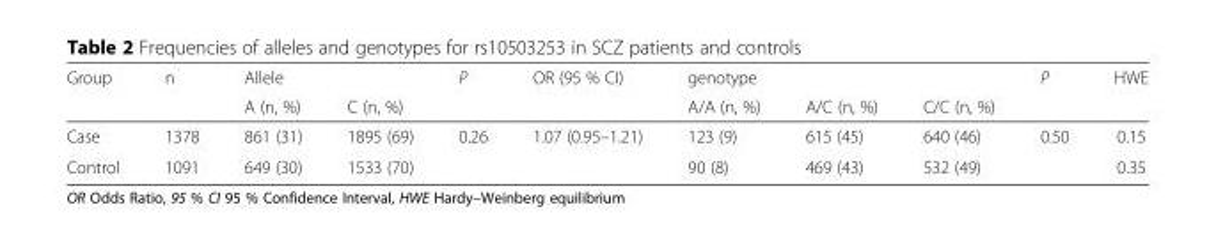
<table><thead><tr><td rowspan="2">Group</td><td rowspan="2">n</td><td rowspan="2">Allele A (n, %)</td><td rowspan="2">C (n, %)</td><td rowspan="2">P</td><td rowspan="2">OR (95 % CI)</td><td rowspan="2">genotype A/A (n, %)</td><td rowspan="2">A/C (n, %)</td><td rowspan="2">C/C (n, %)</td><td rowspan="2">P</td><td rowspan="2">HWE</td></tr><tr></tr></thead><tbody><tr><td>Case</td><td>1378</td><td>861 (31)</td><td>1895 (69)</td><td>0.26</td><td>1.07 (0.95–1.21)</td><td>123 (9)</td><td>615 (45)</td><td>640 (46)</td><td>0.50</td><td>0.15</td></tr><tr><td>Control</td><td>1091</td><td>649 (30)</td><td>1533 (70)</td><td></td><td></td><td>90 (8)</td><td>469 (43)</td><td>532 (49)</td><td></td><td>0.35</td></tr></tbody></table>